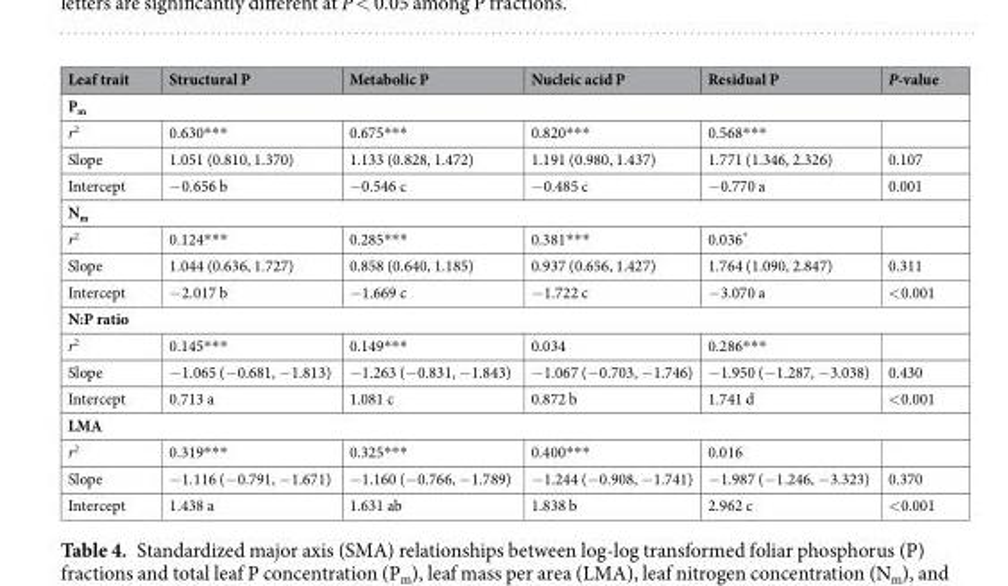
<table><thead><tr><td>Leaf trait</td><td>Structural P</td><td>Metabolic P</td><td>Nucleic acid P</td><td>Residual P</td><td>P-value</td></tr></thead><tbody><tr><td colspan="6">P<sub>m</sub></td></tr><tr><td>r<sup>2</sup></td><td>0.630***</td><td>0.675***</td><td>0.820***</td><td>0.568***</td><td></td></tr><tr><td>Slope</td><td>1.051 (0.810, 1.370)</td><td>1.133 (0.828, 1.472)</td><td>1.191 (0.980, 1.437)</td><td>1.771 (1.346, 2.326)</td><td>0.107</td></tr><tr><td>Intercept</td><td>−0.656 b</td><td>−0.546 c</td><td>−0.485 c</td><td>−0.770 a</td><td>0.001</td></tr><tr><td colspan="6">N<sub>m</sub></td></tr><tr><td>r<sup>2</sup></td><td>0.124***</td><td>0.285***</td><td>0.381***</td><td>0.036*</td><td></td></tr><tr><td>Slope</td><td>1.044 (0.636, 1.727)</td><td>0.858 (0.640, 1.185)</td><td>0.937 (0.656, 1.427)</td><td>1.764 (1.090, 2.847)</td><td>0.311</td></tr><tr><td>Intercept</td><td>−2.017 b</td><td>−1.669 c</td><td>−1.722 c</td><td>−3.070 a</td><td>&lt;0.001</td></tr><tr><td colspan="6">N:P ratio</td></tr><tr><td>r<sup>2</sup></td><td>0.145***</td><td>0.149***</td><td>0.034</td><td>0.286***</td><td></td></tr><tr><td>Slope</td><td>−1.065 (−0.681, −1.813)</td><td>−1.263 (−0.831, −1.843)</td><td>−1.067 (−0.703, −1.746)</td><td>−1.950 (−1.287, −3.038)</td><td>0.430</td></tr><tr><td>Intercept</td><td>0.713 a</td><td>1.081 c</td><td>0.872 b</td><td>1.741 d</td><td>&lt;0.001</td></tr><tr><td colspan="6">LMA</td></tr><tr><td>r<sup>2</sup></td><td>0.319***</td><td>0.325***</td><td>0.400***</td><td>0.016</td><td></td></tr><tr><td>Slope</td><td>−1.116 (−0.791, −1.671)</td><td>−1.160 (−0.766, −1.789)</td><td>−1.244 (−0.908, −1.741)</td><td>−1.987 (−1.246, −3.323)</td><td>0.370</td></tr><tr><td>Intercept</td><td>1.438 a</td><td>1.631 ab</td><td>1.838 b</td><td>2.962 c</td><td>&lt;0.001</td></tr></tbody></table>